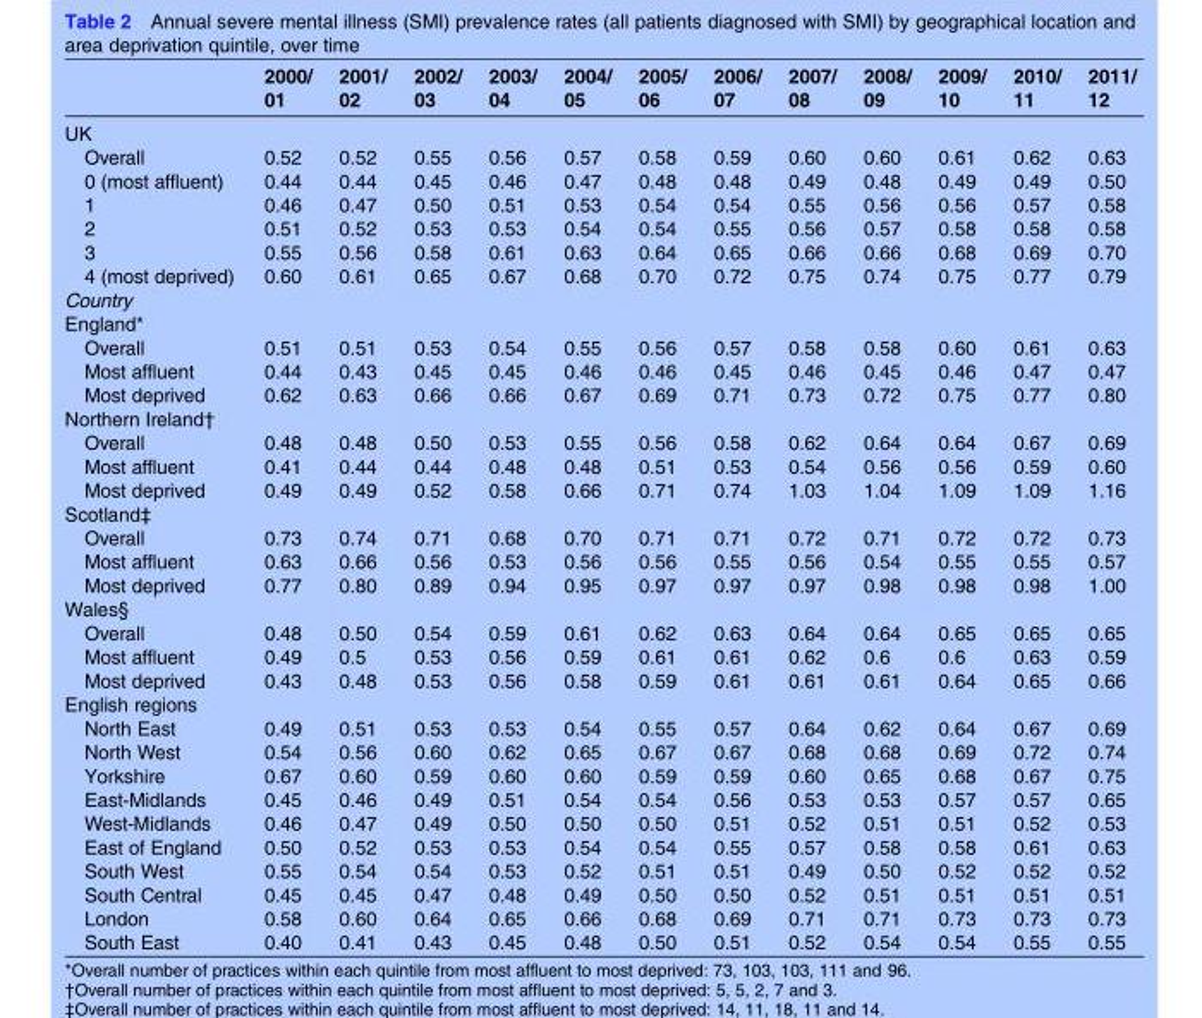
<table><thead><tr><td></td><td>2000/ 01</td><td>2001/ 02</td><td>2002/ 03</td><td>2003/ 04</td><td>2004/ 05</td><td>2005/ 06</td><td>2006/ 07</td><td>2007/ 08</td><td>2008/ 09</td><td>2009/ 10</td><td>2010/ 11</td><td>2011/ 12</td></tr></thead><tbody><tr><td colspan="13">UK</td></tr><tr><td>Overall</td><td>0.52</td><td>0.52</td><td>0.55</td><td>0.56</td><td>0.57</td><td>0.58</td><td>0.59</td><td>0.60</td><td>0.60</td><td>0.61</td><td>0.62</td><td>0.63</td></tr><tr><td>0 (most affluent)</td><td>0.44</td><td>0.44</td><td>0.45</td><td>0.46</td><td>0.47</td><td>0.48</td><td>0.48</td><td>0.49</td><td>0.48</td><td>0.49</td><td>0.49</td><td>0.50</td></tr><tr><td>1</td><td>0.46</td><td>0.47</td><td>0.50</td><td>0.51</td><td>0.53</td><td>0.54</td><td>0.54</td><td>0.55</td><td>0.56</td><td>0.56</td><td>0.57</td><td>0.58</td></tr><tr><td>2</td><td>0.51</td><td>0.52</td><td>0.53</td><td>0.53</td><td>0.54</td><td>0.54</td><td>0.55</td><td>0.56</td><td>0.57</td><td>0.58</td><td>0.58</td><td>0.58</td></tr><tr><td>3</td><td>0.55</td><td>0.56</td><td>0.58</td><td>0.61</td><td>0.63</td><td>0.64</td><td>0.65</td><td>0.66</td><td>0.66</td><td>0.68</td><td>0.69</td><td>0.70</td></tr><tr><td>4 (most deprived)</td><td>0.60</td><td>0.61</td><td>0.65</td><td>0.67</td><td>0.68</td><td>0.70</td><td>0.72</td><td>0.75</td><td>0.74</td><td>0.75</td><td>0.77</td><td>0.79</td></tr><tr><td colspan="13">Country</td></tr><tr><td colspan="13">England*</td></tr><tr><td>Overall</td><td>0.51</td><td>0.51</td><td>0.53</td><td>0.54</td><td>0.55</td><td>0.56</td><td>0.57</td><td>0.58</td><td>0.58</td><td>0.60</td><td>0.61</td><td>0.63</td></tr><tr><td>Most affluent</td><td>0.44</td><td>0.43</td><td>0.45</td><td>0.45</td><td>0.46</td><td>0.46</td><td>0.45</td><td>0.46</td><td>0.45</td><td>0.46</td><td>0.47</td><td>0.47</td></tr><tr><td>Most deprived</td><td>0.62</td><td>0.63</td><td>0.66</td><td>0.66</td><td>0.67</td><td>0.69</td><td>0.71</td><td>0.73</td><td>0.72</td><td>0.75</td><td>0.77</td><td>0.80</td></tr><tr><td colspan="13">Northern Ireland†</td></tr><tr><td>Overall</td><td>0.48</td><td>0.48</td><td>0.50</td><td>0.53</td><td>0.55</td><td>0.56</td><td>0.58</td><td>0.62</td><td>0.64</td><td>0.64</td><td>0.67</td><td>0.69</td></tr><tr><td>Most affluent</td><td>0.41</td><td>0.44</td><td>0.44</td><td>0.48</td><td>0.48</td><td>0.51</td><td>0.53</td><td>0.54</td><td>0.56</td><td>0.56</td><td>0.59</td><td>0.60</td></tr><tr><td>Most deprived</td><td>0.49</td><td>0.49</td><td>0.52</td><td>0.58</td><td>0.66</td><td>0.71</td><td>0.74</td><td>1.03</td><td>1.04</td><td>1.09</td><td>1.09</td><td>1.16</td></tr><tr><td colspan="13">Scotland‡</td></tr><tr><td>Overall</td><td>0.73</td><td>0.74</td><td>0.71</td><td>0.68</td><td>0.70</td><td>0.71</td><td>0.71</td><td>0.72</td><td>0.71</td><td>0.72</td><td>0.72</td><td>0.73</td></tr><tr><td>Most affluent</td><td>0.63</td><td>0.66</td><td>0.56</td><td>0.53</td><td>0.56</td><td>0.56</td><td>0.55</td><td>0.56</td><td>0.54</td><td>0.55</td><td>0.55</td><td>0.57</td></tr><tr><td>Most deprived</td><td>0.77</td><td>0.80</td><td>0.89</td><td>0.94</td><td>0.95</td><td>0.97</td><td>0.97</td><td>0.97</td><td>0.98</td><td>0.98</td><td>0.98</td><td>1.00</td></tr><tr><td colspan="13">Wales§</td></tr><tr><td>Overall</td><td>0.48</td><td>0.50</td><td>0.54</td><td>0.59</td><td>0.61</td><td>0.62</td><td>0.63</td><td>0.64</td><td>0.64</td><td>0.65</td><td>0.65</td><td>0.65</td></tr><tr><td>Most affluent</td><td>0.49</td><td>0.5</td><td>0.53</td><td>0.56</td><td>0.59</td><td>0.61</td><td>0.61</td><td>0.62</td><td>0.6</td><td>0.6</td><td>0.63</td><td>0.59</td></tr><tr><td>Most deprived</td><td>0.43</td><td>0.48</td><td>0.53</td><td>0.56</td><td>0.58</td><td>0.59</td><td>0.61</td><td>0.61</td><td>0.61</td><td>0.64</td><td>0.65</td><td>0.66</td></tr><tr><td colspan="13">English regions</td></tr><tr><td>North East</td><td>0.49</td><td>0.51</td><td>0.53</td><td>0.53</td><td>0.54</td><td>0.55</td><td>0.57</td><td>0.64</td><td>0.62</td><td>0.64</td><td>0.67</td><td>0.69</td></tr><tr><td>North West</td><td>0.54</td><td>0.56</td><td>0.60</td><td>0.62</td><td>0.65</td><td>0.67</td><td>0.67</td><td>0.68</td><td>0.68</td><td>0.69</td><td>0.72</td><td>0.74</td></tr><tr><td>Yorkshire</td><td>0.67</td><td>0.60</td><td>0.59</td><td>0.60</td><td>0.60</td><td>0.59</td><td>0.59</td><td>0.60</td><td>0.65</td><td>0.68</td><td>0.67</td><td>0.75</td></tr><tr><td>East-Midlands</td><td>0.45</td><td>0.46</td><td>0.49</td><td>0.51</td><td>0.54</td><td>0.54</td><td>0.56</td><td>0.53</td><td>0.53</td><td>0.57</td><td>0.57</td><td>0.65</td></tr><tr><td>West-Midlands</td><td>0.46</td><td>0.47</td><td>0.49</td><td>0.50</td><td>0.50</td><td>0.50</td><td>0.51</td><td>0.52</td><td>0.51</td><td>0.51</td><td>0.52</td><td>0.53</td></tr><tr><td>East of England</td><td>0.50</td><td>0.52</td><td>0.53</td><td>0.53</td><td>0.54</td><td>0.54</td><td>0.55</td><td>0.57</td><td>0.58</td><td>0.58</td><td>0.61</td><td>0.63</td></tr><tr><td>South West</td><td>0.55</td><td>0.54</td><td>0.54</td><td>0.53</td><td>0.52</td><td>0.51</td><td>0.51</td><td>0.49</td><td>0.50</td><td>0.52</td><td>0.52</td><td>0.52</td></tr><tr><td>South Central</td><td>0.45</td><td>0.45</td><td>0.47</td><td>0.48</td><td>0.49</td><td>0.50</td><td>0.50</td><td>0.52</td><td>0.51</td><td>0.51</td><td>0.51</td><td>0.51</td></tr><tr><td>London</td><td>0.58</td><td>0.60</td><td>0.64</td><td>0.65</td><td>0.66</td><td>0.68</td><td>0.69</td><td>0.71</td><td>0.71</td><td>0.73</td><td>0.73</td><td>0.73</td></tr><tr><td>South East</td><td>0.40</td><td>0.41</td><td>0.43</td><td>0.45</td><td>0.48</td><td>0.50</td><td>0.51</td><td>0.52</td><td>0.54</td><td>0.54</td><td>0.55</td><td>0.55</td></tr></tbody></table>